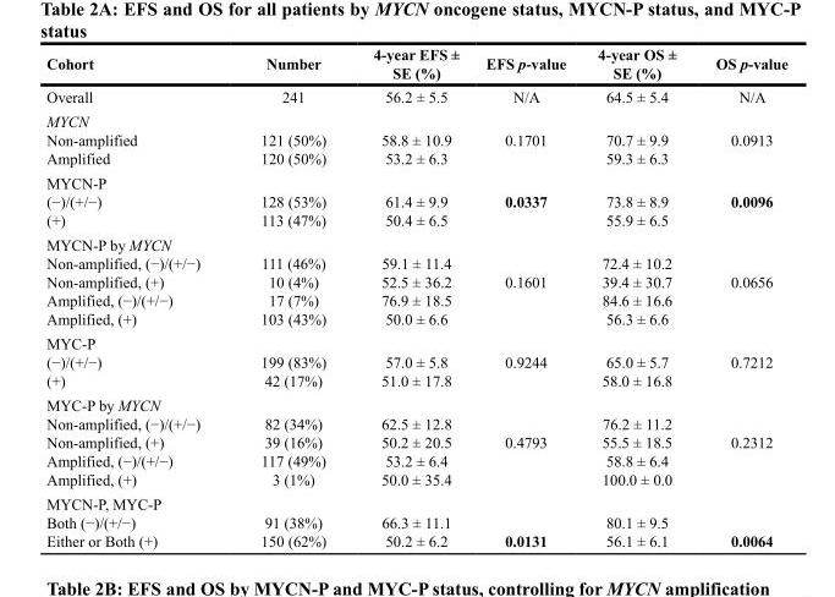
<table><thead><tr><td>Cohort</td><td>Number</td><td>4-year EFS ± SE (%)</td><td>EFS p-value</td><td>4-year OS ± SE (%)</td><td>OS p-value</td></tr></thead><tbody><tr><td>Overall</td><td>241</td><td>56.2 ± 5.5</td><td>N/A</td><td>64.5 ± 5.4</td><td>N/A</td></tr><tr><td>MYCN Non-amplified Amplified</td><td>121 (50%) 120 (50%)</td><td>58.8 ± 10.9 53.2 ± 6.3</td><td>0.1701</td><td>70.7 ± 9.9 59.3 ± 6.3</td><td>0.0913</td></tr><tr><td>MYCN-P (−)/(+/−) (+)</td><td>128 (53%) 113 (47%)</td><td>61.4 ± 9.9 50.4 ± 6.5</td><td>0.0337</td><td>73.8 ± 8.9 55.9 ± 6.5</td><td>0.0096</td></tr><tr><td>MYCN-P by MYCN Non-amplified, (−)/(+/−) Non-amplified, (+) Amplified, (−)/(+/−) Amplified, (+)</td><td>111 (46%) 10 (4%) 17 (7%) 103 (43%)</td><td>59.1 ± 11.4 52.5 ± 36.2 76.9 ± 18.5 50.0 ± 6.6</td><td>0.1601</td><td>72.4 ± 10.2 39.4 ± 30.7 84.6 ± 16.6 56.3 ± 6.6</td><td>0.0656</td></tr><tr><td>MYC-P (−)/(+/−) (+)</td><td>199 (83%) 42 (17%)</td><td>57.0 ± 5.8 51.0 ± 17.8</td><td>0.9244</td><td>65.0 ± 5.7 58.0 ± 16.8</td><td>0.7212</td></tr><tr><td>MYC-P by MYCN Non-amplified, (−)/(+/−) Non-amplified, (+) Amplified, (−)/(+/−) Amplified, (+)</td><td>82 (34%) 39 (16%) 117 (49%) 3 (1%)</td><td>62.5 ± 12.8 50.2 ± 20.5 53.2 ± 6.4 50.0 ± 35.4</td><td>0.4793</td><td>76.2 ± 11.2 55.5 ± 18.5 58.8 ± 6.4 100.0 ± 0.0</td><td>0.2312</td></tr><tr><td>MYCN-P, MYC-P Both (−)/(+/−) Either or Both (+)</td><td>91 (38%) 150 (62%)</td><td>66.3 ± 11.1 50.2 ± 6.2</td><td>0.0131</td><td>80.1 ± 9.5 56.1 ± 6.1</td><td>0.0064</td></tr></tbody></table>